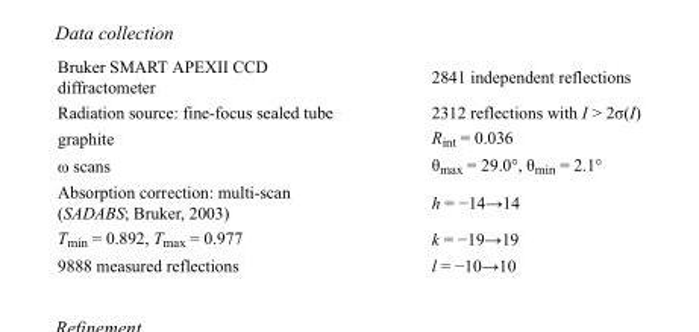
<table><tbody><tr><td>Bruker SMART APEXII CCD diffractometer</td><td>2841 independent reflections</td></tr><tr><td>Radiation source: fine-focus sealed tube</td><td>2312 reflections with I &gt; 2σ(I)</td></tr><tr><td>graphite</td><td>R<sub>int</sub> = 0.036</td></tr><tr><td>ω scans</td><td>θ<sub>max</sub> = 29.0°, θ<sub>min</sub> = 2.1°</td></tr><tr><td>Absorption correction: multi-scan (SADABS; Bruker, 2003)</td><td>h = −14→14</td></tr><tr><td>T<sub>min</sub> = 0.892, T<sub>max</sub> = 0.977</td><td>k = −19→19</td></tr><tr><td>9888 measured reflections</td><td>l = −10→10</td></tr></tbody></table>